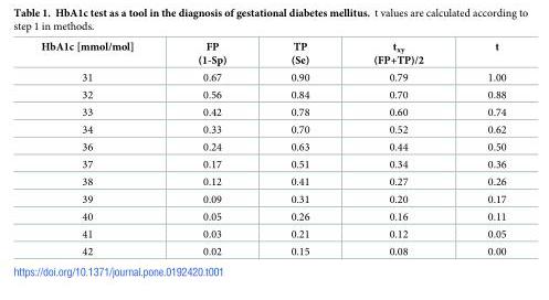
<table><thead><tr><td>HbA1c [mmol/mol]</td><td>FP (1-Sp)</td><td>TP (Se)</td><td>t<sub>xy</sub> (FP+TP)/2</td><td>t</td></tr></thead><tbody><tr><td>31</td><td>0.67</td><td>0.90</td><td>0.79</td><td>1.00</td></tr><tr><td>32</td><td>0.56</td><td>0.84</td><td>0.70</td><td>0.88</td></tr><tr><td>33</td><td>0.42</td><td>0.78</td><td>0.60</td><td>0.74</td></tr><tr><td>34</td><td>0.33</td><td>0.70</td><td>0.52</td><td>0.62</td></tr><tr><td>36</td><td>0.24</td><td>0.63</td><td>0.44</td><td>0.50</td></tr><tr><td>37</td><td>0.17</td><td>0.51</td><td>0.34</td><td>0.36</td></tr><tr><td>38</td><td>0.12</td><td>0.41</td><td>0.27</td><td>0.26</td></tr><tr><td>39</td><td>0.09</td><td>0.31</td><td>0.20</td><td>0.17</td></tr><tr><td>40</td><td>0.05</td><td>0.26</td><td>0.16</td><td>0.11</td></tr><tr><td>41</td><td>0.03</td><td>0.21</td><td>0.12</td><td>0.05</td></tr><tr><td>42</td><td>0.02</td><td>0.15</td><td>0.08</td><td>0.00</td></tr></tbody></table>